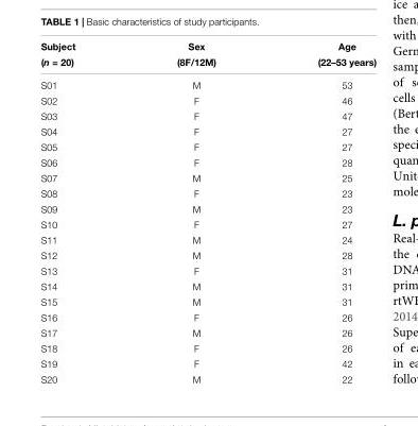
<table><thead><tr><td>Subject (n = 20)</td><td>Sex (8F/12M)</td><td>Age (22–53 years)</td></tr></thead><tbody><tr><td>S01</td><td>M</td><td>53</td></tr><tr><td>S02</td><td>F</td><td>46</td></tr><tr><td>S03</td><td>F</td><td>47</td></tr><tr><td>S04</td><td>F</td><td>27</td></tr><tr><td>S05</td><td>F</td><td>27</td></tr><tr><td>S06</td><td>F</td><td>28</td></tr><tr><td>S07</td><td>M</td><td>25</td></tr><tr><td>S08</td><td>F</td><td>23</td></tr><tr><td>S09</td><td>M</td><td>23</td></tr><tr><td>S10</td><td>F</td><td>27</td></tr><tr><td>S11</td><td>M</td><td>24</td></tr><tr><td>S12</td><td>M</td><td>28</td></tr><tr><td>S13</td><td>F</td><td>31</td></tr><tr><td>S14</td><td>M</td><td>31</td></tr><tr><td>S15</td><td>M</td><td>31</td></tr><tr><td>S16</td><td>F</td><td>26</td></tr><tr><td>S17</td><td>M</td><td>26</td></tr><tr><td>S18</td><td>F</td><td>26</td></tr><tr><td>S19</td><td>F</td><td>42</td></tr><tr><td>S20</td><td>M</td><td>22</td></tr></tbody></table>